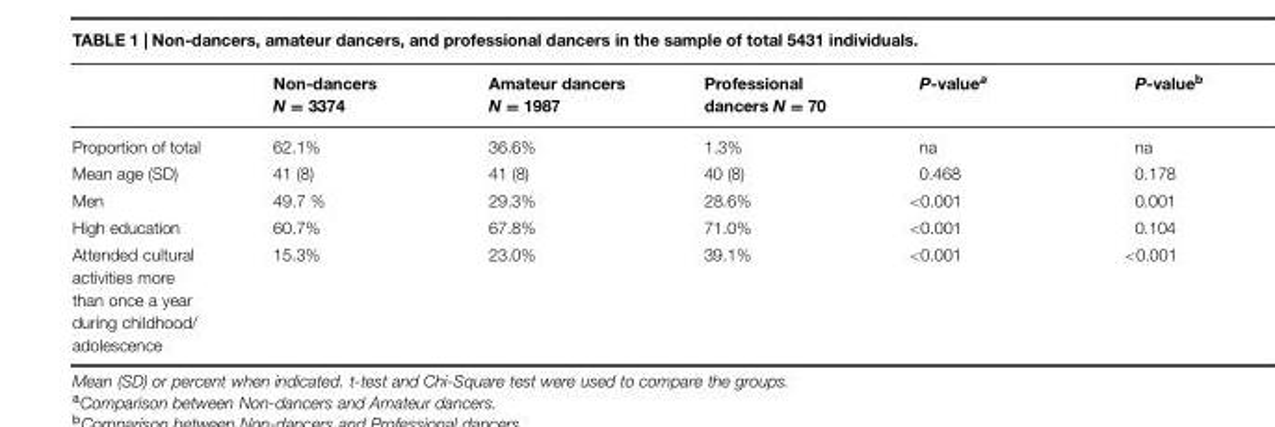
<table><thead><tr><td></td><td>Non-dancers N = 3374</td><td>Amateur dancers N = 1987</td><td>Professional dancers N = 70</td><td>P-value<sup>a</sup></td><td>P-value<sup>b</sup></td></tr></thead><tbody><tr><td>Proportion of total</td><td>62.1%</td><td>36.6%</td><td>1.3%</td><td>na</td><td>na</td></tr><tr><td>Mean age (SD)</td><td>41 (8)</td><td>41 (8)</td><td>40 (8)</td><td>0.468</td><td>0.178</td></tr><tr><td>Men</td><td>49.7 %</td><td>29.3%</td><td>28.6%</td><td>&lt;0.001</td><td>0.001</td></tr><tr><td>High education</td><td>60.7%</td><td>67.8%</td><td>71.0%</td><td>&lt;0.001</td><td>0.104</td></tr><tr><td>Attended cultural activities more than once a year during childhood/ adolescence</td><td>15.3%</td><td>23.0%</td><td>39.1%</td><td>&lt;0.001</td><td>&lt;0.001</td></tr></tbody></table>